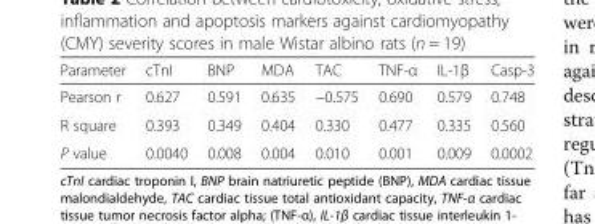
<table><thead><tr><td>Parameter</td><td>cTnI</td><td>BNP</td><td>MDA</td><td>TAC</td><td>TNF-α</td><td>IL-1β</td><td>Casp-3</td></tr></thead><tbody><tr><td>Pearson r</td><td>0.627</td><td>0.591</td><td>0.635</td><td>−0.575</td><td>0.690</td><td>0.579</td><td>0.748</td></tr><tr><td>R square</td><td>0.393</td><td>0.349</td><td>0.404</td><td>0.330</td><td>0.477</td><td>0.335</td><td>0.560</td></tr><tr><td>P value</td><td>0.0040</td><td>0.008</td><td>0.004</td><td>0.010</td><td>0.001</td><td>0.009</td><td>0.0002</td></tr></tbody></table>